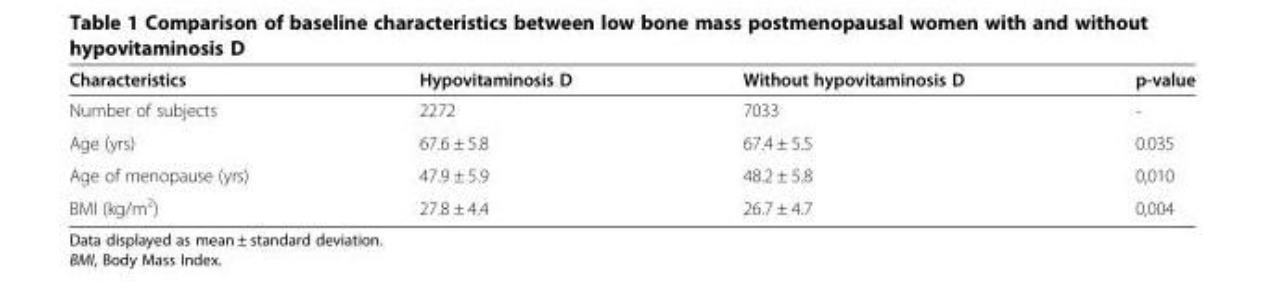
<table><thead><tr><td>Characteristics</td><td>Hypovitaminosis D</td><td>Without hypovitaminosis D</td><td>p-value</td></tr></thead><tbody><tr><td>Number of subjects</td><td>2272</td><td>7033</td><td>-</td></tr><tr><td>Age (yrs)</td><td>67.6 ± 5.8</td><td>67.4 ± 5.5</td><td>0.035</td></tr><tr><td>Age of menopause (yrs)</td><td>47.9 ± 5.9</td><td>48.2 ± 5.8</td><td>0,010</td></tr><tr><td>BMI (kg/m<sup>2</sup>)</td><td>27.8 ± 4.4</td><td>26.7 ± 4.7</td><td>0,004</td></tr></tbody></table>